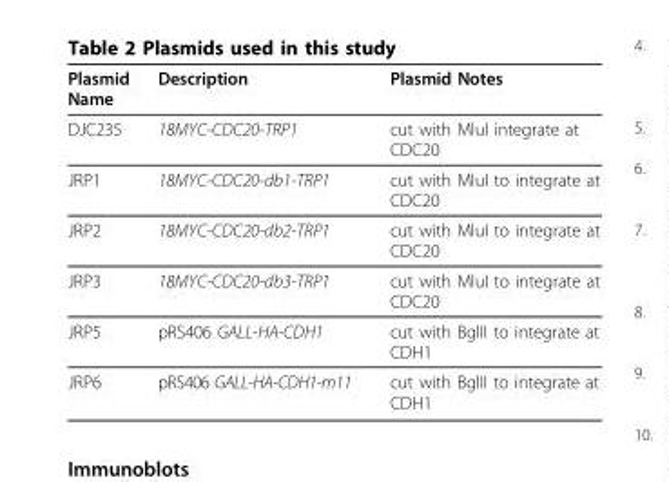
<table><thead><tr><td>Plasmid Name</td><td>Description</td><td>Plasmid Notes</td></tr></thead><tbody><tr><td>DJC235</td><td>18MYC-CDC20-TRP1</td><td>cut with MluI integrate at CDC20</td></tr><tr><td>JRP1</td><td>18MYC-CDC20-db1-TRP1</td><td>cut with MluI to integrate at CDC20</td></tr><tr><td>JRP2</td><td>18MYC-CDC20-db2-TRP1</td><td>cut with MluI to integrate at CDC20</td></tr><tr><td>JRP3</td><td>18MYC-CDC20-db3-TRP1</td><td>cut with MluI to integrate at CDC20</td></tr><tr><td>JRP5</td><td>pRS406 GALL-HA-CDH1</td><td>cut with BglII to integrate at CDH1</td></tr><tr><td>JRP6</td><td>pRS406 GALL-HA-CDH1-m11</td><td>cut with BglII to integrate at CDH1</td></tr></tbody></table>